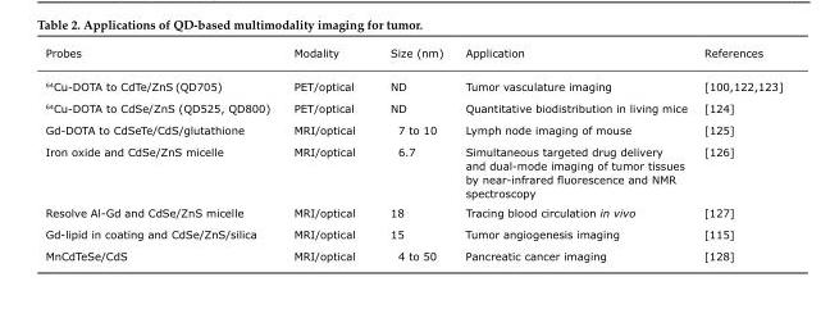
<table><thead><tr><td>Probes</td><td>Modality</td><td>Size (nm)</td><td>Application</td><td>References</td></tr></thead><tbody><tr><td><sup>64</sup>Cu-DOTA to CdTe/ZnS (QD705)</td><td>PET/optical</td><td>ND</td><td>Tumor vasculature imaging</td><td>[100,122,123]</td></tr><tr><td><sup>64</sup>Cu-DOTA to CdSe/ZnS (QD525, QD800)</td><td>PET/optical</td><td>ND</td><td>Quantitative biodistribution in living mice</td><td>[124]</td></tr><tr><td>Gd-DOTA to CdSeTe/CdS/glutathione</td><td>MRI/optical</td><td>7 to 10</td><td>Lymph node imaging of mouse</td><td>[125]</td></tr><tr><td>Iron oxide and CdSe/ZnS micelle</td><td>MRI/optical</td><td>6.7</td><td>Simultaneous targeted drug delivery and dual-mode imaging of tumor tissues by near-infrared fluorescence and NMR spectroscopy</td><td>[126]</td></tr><tr><td>Resolve Al-Gd and CdSe/ZnS micelle</td><td>MRI/optical</td><td>18</td><td>Tracing blood circulation in vivo</td><td>[127]</td></tr><tr><td>Gd-lipid in coating and CdSe/ZnS/silica</td><td>MRI/optical</td><td>15</td><td>Tumor angiogenesis imaging</td><td>[115]</td></tr><tr><td>MnCdTeSe/CdS</td><td>MRI/optical</td><td>4 to 50</td><td>Pancreatic cancer imaging</td><td>[128]</td></tr></tbody></table>